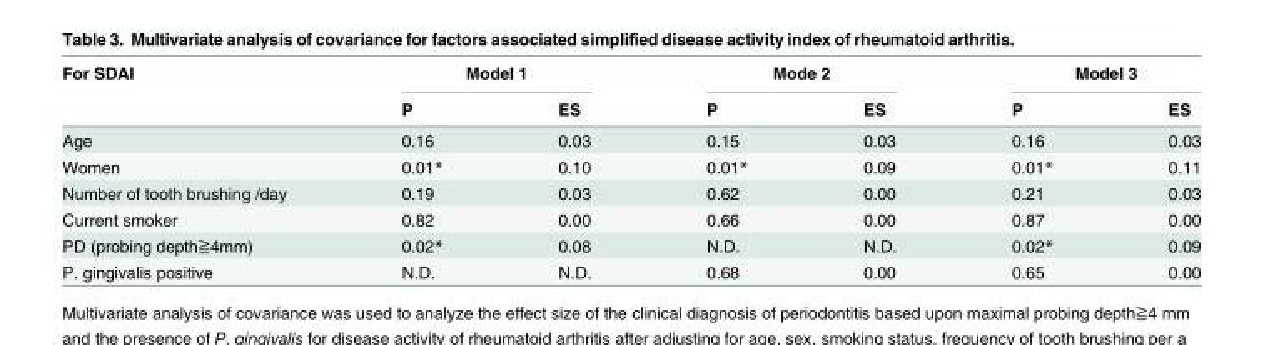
<table><thead><tr><td rowspan="2">For SDAI</td><td colspan="2">Model 1</td><td colspan="2">Mode 2</td><td colspan="2">Model 3</td></tr><tr><td>P</td><td>ES</td><td>P</td><td>ES</td><td>P</td><td>ES</td></tr></thead><tbody><tr><td>Age</td><td>0.16</td><td>0.03</td><td>0.15</td><td>0.03</td><td>0.16</td><td>0.03</td></tr><tr><td>Women</td><td>0.01*</td><td>0.10</td><td>0.01*</td><td>0.09</td><td>0.01*</td><td>0.11</td></tr><tr><td>Number of tooth brushing /day</td><td>0.19</td><td>0.03</td><td>0.62</td><td>0.00</td><td>0.21</td><td>0.03</td></tr><tr><td>Current smoker</td><td>0.82</td><td>0.00</td><td>0.66</td><td>0.00</td><td>0.87</td><td>0.00</td></tr><tr><td>PD (probing depth≧4mm)</td><td>0.02*</td><td>0.08</td><td>N.D.</td><td>N.D.</td><td>0.02*</td><td>0.09</td></tr><tr><td>P. gingivalis positive</td><td>N.D.</td><td>N.D.</td><td>0.68</td><td>0.00</td><td>0.65</td><td>0.00</td></tr></tbody></table>